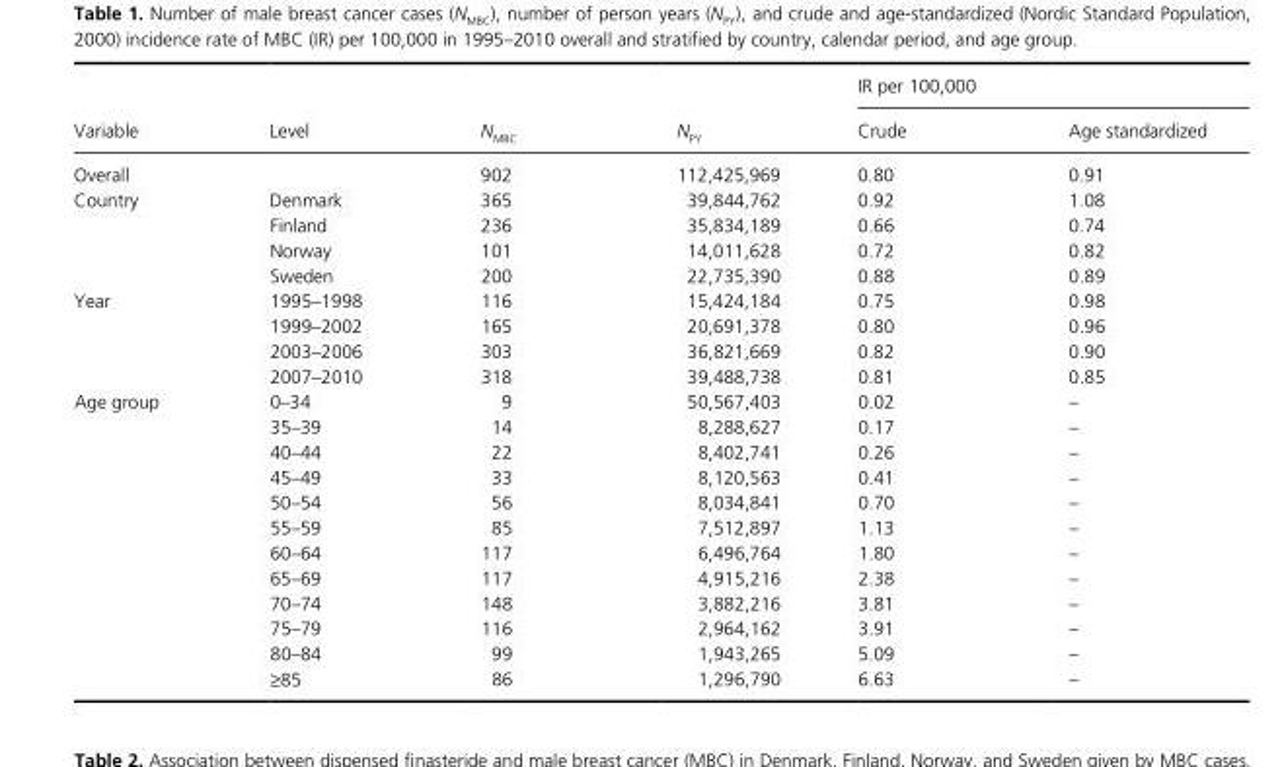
<table><thead><tr><td rowspan="2">Variable</td><td rowspan="2">Level</td><td rowspan="2">N<sub>MBC</sub></td><td rowspan="2">N<sub>PY</sub></td><td colspan="2">IR per 100,000</td></tr><tr><td>Crude</td><td>Age standardized</td></tr></thead><tbody><tr><td>Overall</td><td></td><td>902</td><td>112,425,969</td><td>0.80</td><td>0.91</td></tr><tr><td rowspan="4">Country</td><td>Denmark</td><td>365</td><td>39,844,762</td><td>0.92</td><td>1.08</td></tr><tr><td>Finland</td><td>236</td><td>35,834,189</td><td>0.66</td><td>0.74</td></tr><tr><td>Norway</td><td>101</td><td>14,011,628</td><td>0.72</td><td>0.82</td></tr><tr><td>Sweden</td><td>200</td><td>22,735,390</td><td>0.88</td><td>0.89</td></tr><tr><td rowspan="4">Year</td><td>1995–1998</td><td>116</td><td>15,424,184</td><td>0.75</td><td>0.98</td></tr><tr><td>1999–2002</td><td>165</td><td>20,691,378</td><td>0.80</td><td>0.96</td></tr><tr><td>2003–2006</td><td>303</td><td>36,821,669</td><td>0.82</td><td>0.90</td></tr><tr><td>2007–2010</td><td>318</td><td>39,488,738</td><td>0.81</td><td>0.85</td></tr><tr><td rowspan="12">Age group</td><td>0–34</td><td>9</td><td>50,567,403</td><td>0.02</td><td>–</td></tr><tr><td>35–39</td><td>14</td><td>8,288,627</td><td>0.17</td><td>–</td></tr><tr><td>40–44</td><td>22</td><td>8,402,741</td><td>0.26</td><td>–</td></tr><tr><td>45–49</td><td>33</td><td>8,120,563</td><td>0.41</td><td>–</td></tr><tr><td>50–54</td><td>56</td><td>8,034,841</td><td>0.70</td><td>–</td></tr><tr><td>55–59</td><td>85</td><td>7,512,897</td><td>1.13</td><td>–</td></tr><tr><td>60–64</td><td>117</td><td>6,496,764</td><td>1.80</td><td>–</td></tr><tr><td>65–69</td><td>117</td><td>4,915,216</td><td>2.38</td><td>–</td></tr><tr><td>70–74</td><td>148</td><td>3,882,216</td><td>3.81</td><td>–</td></tr><tr><td>75–79</td><td>116</td><td>2,964,162</td><td>3.91</td><td>–</td></tr><tr><td>80–84</td><td>99</td><td>1,943,265</td><td>5.09</td><td>–</td></tr><tr><td>≥85</td><td>86</td><td>1,296,790</td><td>6.63</td><td>–</td></tr></tbody></table>